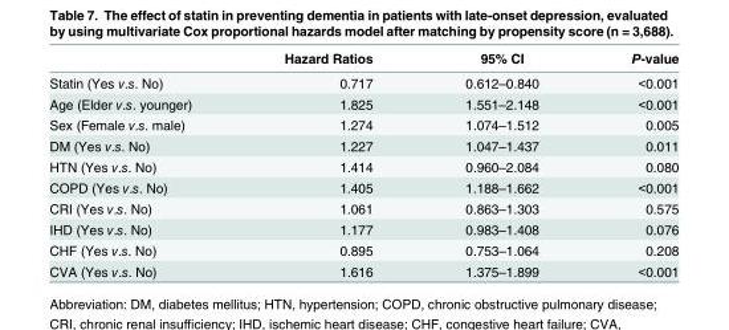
<table><thead><tr><td></td><td>Hazard Ratios</td><td>95% CI</td><td>P-value</td></tr></thead><tbody><tr><td>Statin (Yes v.s. No)</td><td>0.717</td><td>0.612–0.840</td><td>&lt;0.001</td></tr><tr><td>Age (Elder v.s. younger)</td><td>1.825</td><td>1.551–2.148</td><td>&lt;0.001</td></tr><tr><td>Sex (Female v.s. male)</td><td>1.274</td><td>1.074–1.512</td><td>0.005</td></tr><tr><td>DM (Yes v.s. No)</td><td>1.227</td><td>1.047–1.437</td><td>0.011</td></tr><tr><td>HTN (Yes v.s. No)</td><td>1.414</td><td>0.960–2.084</td><td>0.080</td></tr><tr><td>COPD (Yes v.s. No)</td><td>1.405</td><td>1.188–1.662</td><td>&lt;0.001</td></tr><tr><td>CRI (Yes v.s. No)</td><td>1.061</td><td>0.863–1.303</td><td>0.575</td></tr><tr><td>IHD (Yes v.s. No)</td><td>1.177</td><td>0.983–1.408</td><td>0.076</td></tr><tr><td>CHF (Yes v.s. No)</td><td>0.895</td><td>0.753–1.064</td><td>0.208</td></tr><tr><td>CVA (Yes v.s. No)</td><td>1.616</td><td>1.375–1.899</td><td>&lt;0.001</td></tr></tbody></table>